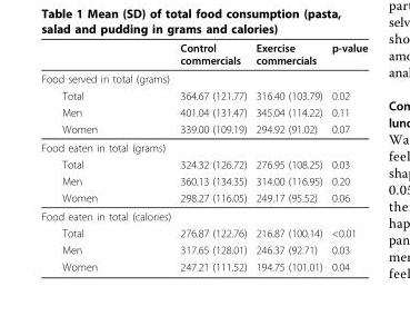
<table><thead><tr><td></td><td>Control commercials</td><td>Exercise commercials</td><td>p-value</td></tr></thead><tbody><tr><td colspan="4">Food served in total (grams)</td></tr><tr><td>Total</td><td>364.67 (121.77)</td><td>316.40 (103.79)</td><td>0.02</td></tr><tr><td>Men</td><td>401.04 (131.47)</td><td>345.04 (114.22)</td><td>0.11</td></tr><tr><td>Women</td><td>339.00 (109.19)</td><td>294.92 (91.02)</td><td>0.07</td></tr><tr><td colspan="4">Food eaten in total (grams)</td></tr><tr><td>Total</td><td>324.32 (126.72)</td><td>276.95 (108.25)</td><td>0.03</td></tr><tr><td>Men</td><td>360.13 (134.35)</td><td>314.00 (116.95)</td><td>0.20</td></tr><tr><td>Women</td><td>298.27 (116.05)</td><td>249.17 (95.52)</td><td>0.06</td></tr><tr><td colspan="4">Food eaten in total (calories)</td></tr><tr><td>Total</td><td>276.87 (122.76)</td><td>216.87 (100.14)</td><td>&lt;0.01</td></tr><tr><td>Men</td><td>317.65 (128.01)</td><td>246.37 (92.71)</td><td>0.03</td></tr><tr><td>Women</td><td>247.21 (111.52)</td><td>194.75 (101.01)</td><td>0.04</td></tr></tbody></table>